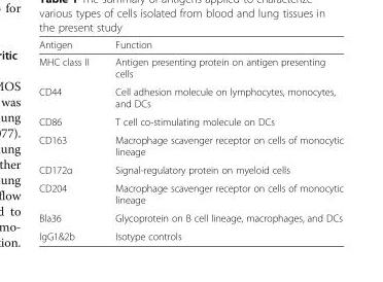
<table><thead><tr><td>Antigen</td><td>Function</td></tr></thead><tbody><tr><td>MHC class II</td><td>Antigen presenting protein on antigen presenting cells</td></tr><tr><td>CD44</td><td>Cell adhesion molecule on lymphocytes, monocytes, and DCs</td></tr><tr><td>CD86</td><td>T cell co-stimulating molecule on DCs</td></tr><tr><td>CD163</td><td>Macrophage scavenger receptor on cells of monocytic lineage</td></tr><tr><td>CD172α</td><td>Signal-regulatory protein on myeloid cells</td></tr><tr><td>CD204</td><td>Macrophage scavenger receptor on cells of monocytic lineage</td></tr><tr><td>Bla36</td><td>Glycoprotein on B cell lineage, macrophages, and DCs</td></tr><tr><td>IgG1&amp;2b</td><td>Isotype controls</td></tr></tbody></table>